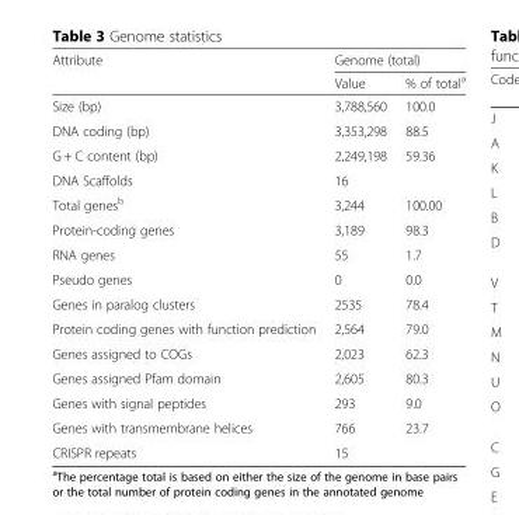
<table><thead><tr><td rowspan="2">Attribute</td><td colspan="2">Genome (total)</td></tr><tr><td>Value</td><td>% of total<sup>a</sup></td></tr></thead><tbody><tr><td>Size (bp)</td><td>3,788,560</td><td>100.0</td></tr><tr><td>DNA coding (bp)</td><td>3,353,298</td><td>88.5</td></tr><tr><td>G + C content (bp)</td><td>2,249,198</td><td>59.36</td></tr><tr><td>DNA Scaffolds</td><td>16</td><td></td></tr><tr><td>Total genes<sup>b</sup></td><td>3,244</td><td>100.00</td></tr><tr><td>Protein-coding genes</td><td>3,189</td><td>98.3</td></tr><tr><td>RNA genes</td><td>55</td><td>1.7</td></tr><tr><td>Pseudo genes</td><td>0</td><td>0.0</td></tr><tr><td>Genes in paralog clusters</td><td>2535</td><td>78.4</td></tr><tr><td>Protein coding genes with function prediction</td><td>2,564</td><td>79.0</td></tr><tr><td>Genes assigned to COGs</td><td>2,023</td><td>62.3</td></tr><tr><td>Genes assigned Pfam domain</td><td>2,605</td><td>80.3</td></tr><tr><td>Genes with signal peptides</td><td>293</td><td>9.0</td></tr><tr><td>Genes with transmembrane helices</td><td>766</td><td>23.7</td></tr><tr><td>CRISPR repeats</td><td>15</td><td></td></tr></tbody></table>